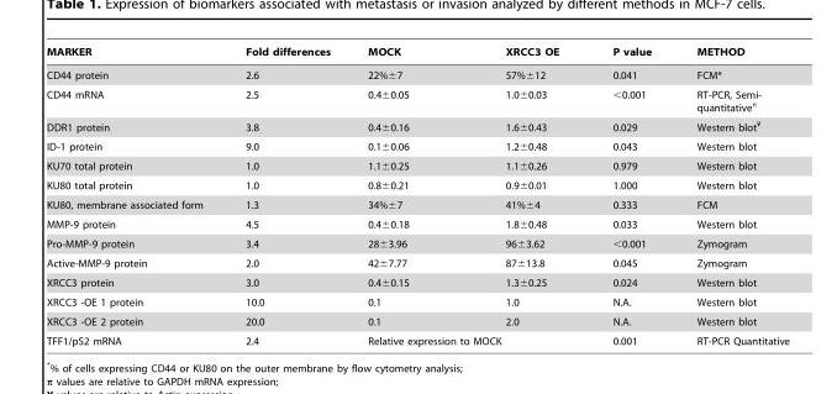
<table><thead><tr><td>MARKER</td><td>Fold differences</td><td>MOCK</td><td>XRCC3 OE</td><td>P value</td><td>METHOD</td></tr></thead><tbody><tr><td>CD44 protein</td><td>2.6</td><td>22%±7</td><td>57%±12</td><td>0.041</td><td>FCM*</td></tr><tr><td>CD44 mRNA</td><td>2.5</td><td>0.4±0.05</td><td>1.0±0.03</td><td>&lt;0.001</td><td>RT-PCR, Semi- quantitativeπ</td></tr><tr><td>DDR1 protein</td><td>3.8</td><td>0.4±0.16</td><td>1.6±0.43</td><td>0.029</td><td>Western blot¥</td></tr><tr><td>ID-1 protein</td><td>9.0</td><td>0.1±0.06</td><td>1.2±0.48</td><td>0.043</td><td>Western blot</td></tr><tr><td>KU70 total protein</td><td>1.0</td><td>1.1±0.25</td><td>1.1±0.26</td><td>0.979</td><td>Western blot</td></tr><tr><td>KU80 total protein</td><td>1.0</td><td>0.8±0.21</td><td>0.9±0.01</td><td>1.000</td><td>Western blot</td></tr><tr><td>KU80, membrane associated form</td><td>1.3</td><td>34%±7</td><td>41%±4</td><td>0.333</td><td>FCM</td></tr><tr><td>MMP-9 protein</td><td>4.5</td><td>0.4±0.18</td><td>1.8±0.48</td><td>0.033</td><td>Western blot</td></tr><tr><td>Pro-MMP-9 protein</td><td>3.4</td><td>28±3.96</td><td>96±3.62</td><td>&lt;0.001</td><td>Zymogram</td></tr><tr><td>Active-MMP-9 protein</td><td>2.0</td><td>42±7.77</td><td>87±13.8</td><td>0.045</td><td>Zymogram</td></tr><tr><td>XRCC3 protein</td><td>3.0</td><td>0.4±0.15</td><td>1.3±0.25</td><td>0.024</td><td>Western blot</td></tr><tr><td>XRCC3 -OE 1 protein</td><td>10.0</td><td>0.1</td><td>1.0</td><td>N.A.</td><td>Western blot</td></tr><tr><td>XRCC3 -OE 2 protein</td><td>20.0</td><td>0.1</td><td>2.0</td><td>N.A.</td><td>Western blot</td></tr><tr><td>TFF1/pS2 mRNA</td><td>2.4</td><td colspan="2">Relative expression to MOCK</td><td>0.001</td><td>RT-PCR Quantitative</td></tr></tbody></table>